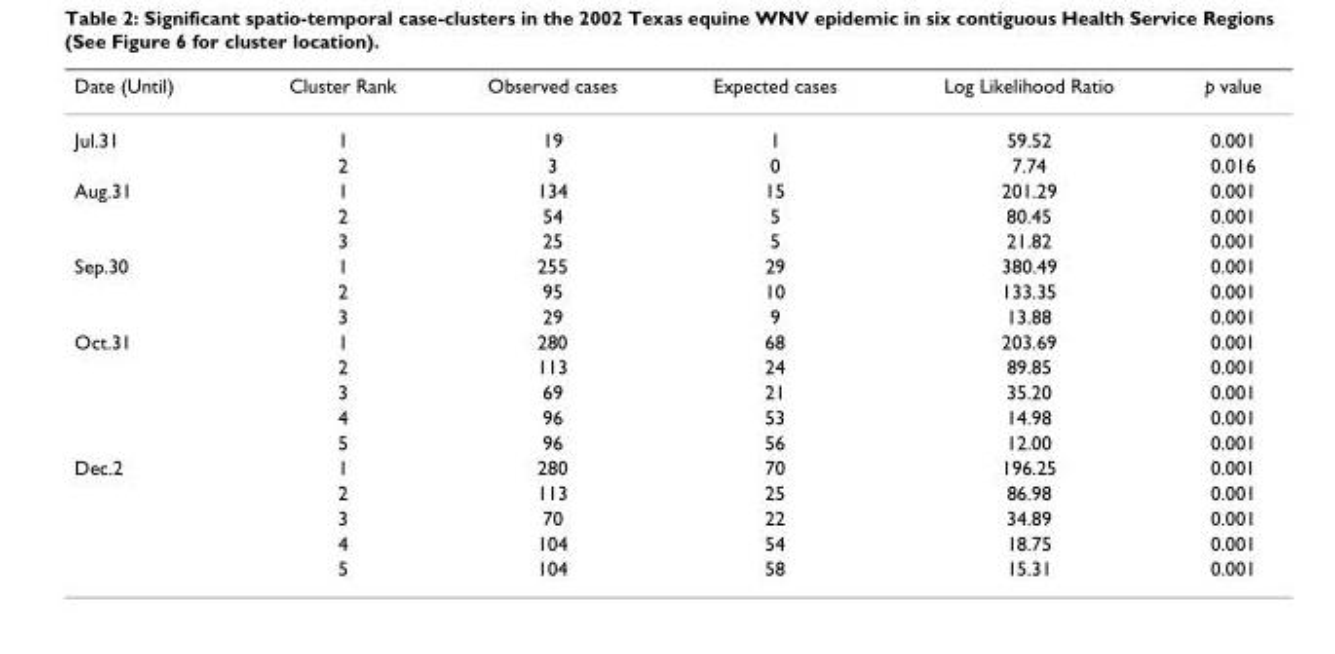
<table><thead><tr><td>Date (Until)</td><td>Cluster Rank</td><td>Observed cases</td><td>Expected cases</td><td>Log Likelihood Ratio</td><td>p value</td></tr></thead><tbody><tr><td rowspan="2">Jul.31</td><td>1</td><td>19</td><td>1</td><td>59.52</td><td>0.001</td></tr><tr><td>2</td><td>3</td><td>0</td><td>7.74</td><td>0.016</td></tr><tr><td rowspan="3">Aug.31</td><td>1</td><td>134</td><td>15</td><td>201.29</td><td>0.001</td></tr><tr><td>2</td><td>54</td><td>5</td><td>80.45</td><td>0.001</td></tr><tr><td>3</td><td>25</td><td>5</td><td>21.82</td><td>0.001</td></tr><tr><td rowspan="3">Sep.30</td><td>1</td><td>255</td><td>29</td><td>380.49</td><td>0.001</td></tr><tr><td>2</td><td>95</td><td>10</td><td>133.35</td><td>0.001</td></tr><tr><td>3</td><td>29</td><td>9</td><td>13.88</td><td>0.001</td></tr><tr><td rowspan="5">Oct.31</td><td>1</td><td>280</td><td>68</td><td>203.69</td><td>0.001</td></tr><tr><td>2</td><td>113</td><td>24</td><td>89.85</td><td>0.001</td></tr><tr><td>3</td><td>69</td><td>21</td><td>35.20</td><td>0.001</td></tr><tr><td>4</td><td>96</td><td>53</td><td>14.98</td><td>0.001</td></tr><tr><td>5</td><td>96</td><td>56</td><td>12.00</td><td>0.001</td></tr><tr><td rowspan="5">Dec.2</td><td>1</td><td>280</td><td>70</td><td>196.25</td><td>0.001</td></tr><tr><td>2</td><td>113</td><td>25</td><td>86.98</td><td>0.001</td></tr><tr><td>3</td><td>70</td><td>22</td><td>34.89</td><td>0.001</td></tr><tr><td>4</td><td>104</td><td>54</td><td>18.75</td><td>0.001</td></tr><tr><td>5</td><td>104</td><td>58</td><td>15.31</td><td>0.001</td></tr></tbody></table>